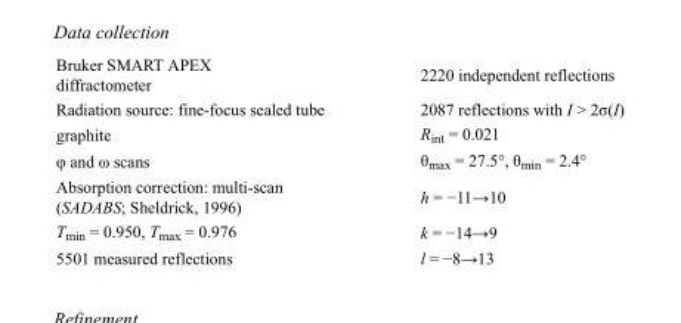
<table><tbody><tr><td>Bruker SMART APEX diffractometer</td><td>2220 independent reflections</td></tr><tr><td>Radiation source: fine-focus sealed tube</td><td>2087 reflections with I &gt; 2σ(I)</td></tr><tr><td>graphite</td><td>R<sub>int</sub> = 0.021</td></tr><tr><td>φ and ω scans</td><td>θ<sub>max</sub> = 27.5°, θ<sub>min</sub> = 2.4°</td></tr><tr><td>Absorption correction: multi-scan (SADABS; Sheldrick, 1996)</td><td>h = −11→10</td></tr><tr><td>T<sub>min</sub> = 0.950, T<sub>max</sub> = 0.976</td><td>k = −14→9</td></tr><tr><td>5501 measured reflections</td><td>l = −8→13</td></tr></tbody></table>